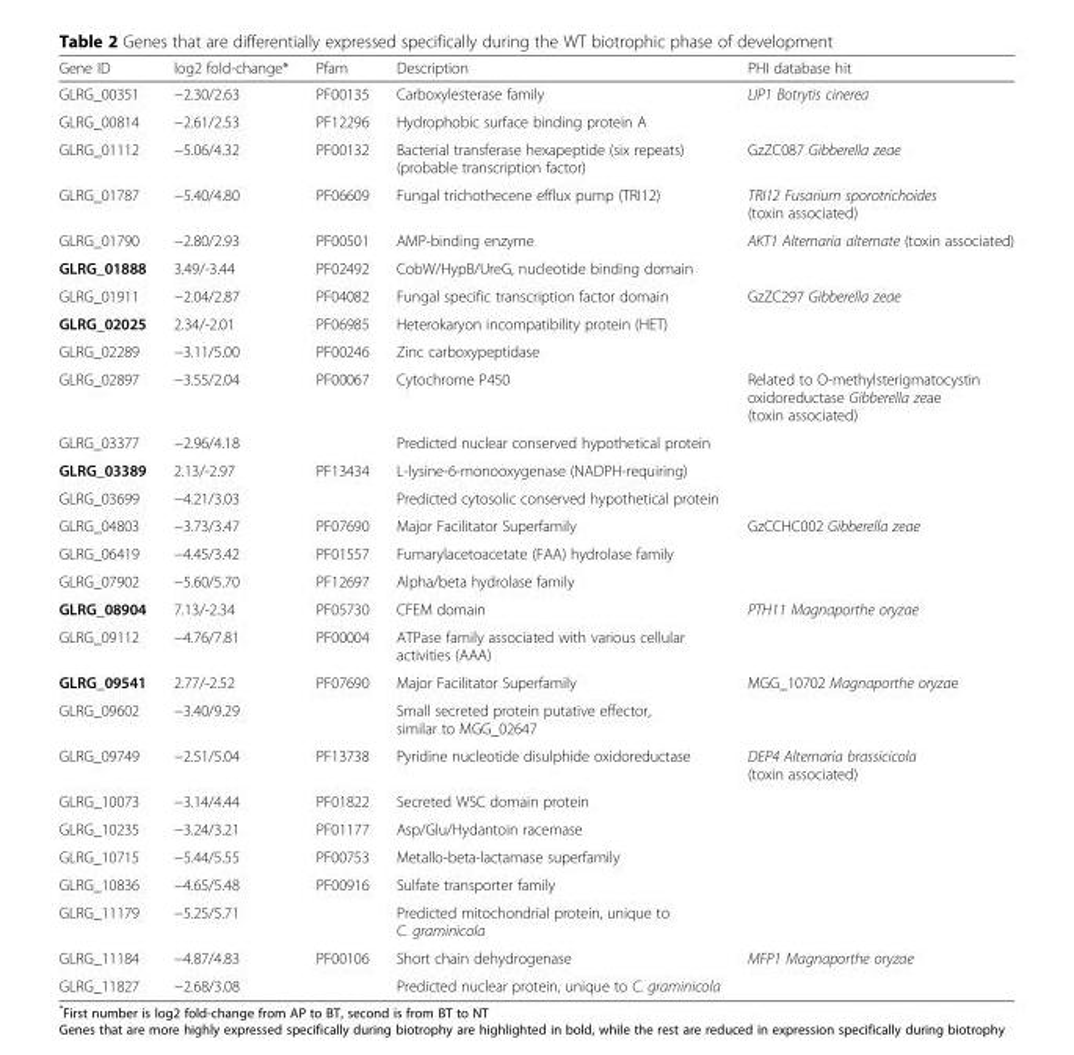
<table><thead><tr><td>Gene ID</td><td>log2 fold-change*</td><td>Pfam</td><td>Description</td><td>PHI database hit</td></tr></thead><tbody><tr><td>GLRG_00351</td><td>−2.30/2.63</td><td>PF00135</td><td>Carboxylesterase family</td><td>LIP1 Botrytis cinerea</td></tr><tr><td>GLRG_00814</td><td>−2.61/2.53</td><td>PF12296</td><td>Hydrophobic surface binding protein A</td><td></td></tr><tr><td>GLRG_01112</td><td>−5.06/4.32</td><td>PF00132</td><td>Bacterial transferase hexapeptide (six repeats) (probable transcription factor)</td><td>GzZC087 Gibberella zeae</td></tr><tr><td>GLRG_01787</td><td>−5.40/4.80</td><td>PF06609</td><td>Fungal trichothecene efflux pump (TRI12)</td><td>TRI12 Fusarium sporotrichoides (toxin associated)</td></tr><tr><td>GLRG_01790</td><td>−2.80/2.93</td><td>PF00501</td><td>AMP-binding enzyme</td><td>AKT1 Alternaria alternate (toxin associated)</td></tr><tr><td>GLRG_01888</td><td>3.49/-3.44</td><td>PF02492</td><td>CobW/HypB/UreG, nucleotide binding domain</td><td></td></tr><tr><td>GLRG_01911</td><td>−2.04/2.87</td><td>PF04082</td><td>Fungal specific transcription factor domain</td><td>GzZC297 Gibberella zeae</td></tr><tr><td>GLRG_02025</td><td>2.34/-2.01</td><td>PF06985</td><td>Heterokaryon incompatibility protein (HET)</td><td></td></tr><tr><td>GLRG_02289</td><td>−3.11/5.00</td><td>PF00246</td><td>Zinc carboxypeptidase</td><td></td></tr><tr><td>GLRG_02897</td><td>−3.55/2.04</td><td>PF00067</td><td>Cytochrome P450</td><td>Related to O-methylsterigmatocystin oxidoreductase Gibberella zeae (toxin associated)</td></tr><tr><td>GLRG_03377</td><td>−2.96/4.18</td><td></td><td>Predicted nuclear conserved hypothetical protein</td><td></td></tr><tr><td>GLRG_03389</td><td>2.13/-2.97</td><td>PF13434</td><td>L-lysine-6-monooxygenase (NADPH-requiring)</td><td></td></tr><tr><td>GLRG_03699</td><td>−4.21/3.03</td><td></td><td>Predicted cytosolic conserved hypothetical protein</td><td></td></tr><tr><td>GLRG_04803</td><td>−3.73/3.47</td><td>PF07690</td><td>Major Facilitator Superfamily</td><td>GzCCHC002 Gibberella zeae</td></tr><tr><td>GLRG_06419</td><td>−4.45/3.42</td><td>PF01557</td><td>Fumarylacetoacetate (FAA) hydrolase family</td><td></td></tr><tr><td>GLRG_07902</td><td>−5.60/5.70</td><td>PF12697</td><td>Alpha/beta hydrolase family</td><td></td></tr><tr><td>GLRG_08904</td><td>7.13/-2.34</td><td>PF05730</td><td>CFEM domain</td><td>PTH11 Magnaporthe oryzae</td></tr><tr><td>GLRG_09112</td><td>−4.76/7.81</td><td>PF00004</td><td>ATPase family associated with various cellular activities (AAA)</td><td></td></tr><tr><td>GLRG_09541</td><td>2.77/-2.52</td><td>PF07690</td><td>Major Facilitator Superfamily</td><td>MGG_10702 Magnaporthe oryzae</td></tr><tr><td>GLRG_09602</td><td>−3.40/9.29</td><td></td><td>Small secreted protein putative effector, similar to MGG_02647</td><td></td></tr><tr><td>GLRG_09749</td><td>−2.51/5.04</td><td>PF13738</td><td>Pyridine nucleotide disulphide oxidoreductase</td><td>DEP4 Alternaria brassicicola (toxin associated)</td></tr><tr><td>GLRG_10073</td><td>−3.14/4.44</td><td>PF01822</td><td>Secreted WSC domain protein</td><td></td></tr><tr><td>GLRG_10235</td><td>−3.24/3.21</td><td>PF01177</td><td>Asp/Glu/Hydantoin racemase</td><td></td></tr><tr><td>GLRG_10715</td><td>−5.44/5.55</td><td>PF00753</td><td>Metallo-beta-lactamase superfamily</td><td></td></tr><tr><td>GLRG_10836</td><td>−4.65/5.48</td><td>PF00916</td><td>Sulfate transporter family</td><td></td></tr><tr><td>GLRG_11179</td><td>−5.25/5.71</td><td></td><td>Predicted mitochondrial protein, unique to C. graminicola</td><td></td></tr><tr><td>GLRG_11184</td><td>−4.87/4.83</td><td>PF00106</td><td>Short chain dehydrogenase</td><td>MFP1 Magnaporthe oryzae</td></tr><tr><td>GLRG_11827</td><td>−2.68/3.08</td><td></td><td>Predicted nuclear protein, unique to C. graminicola</td><td></td></tr></tbody></table>